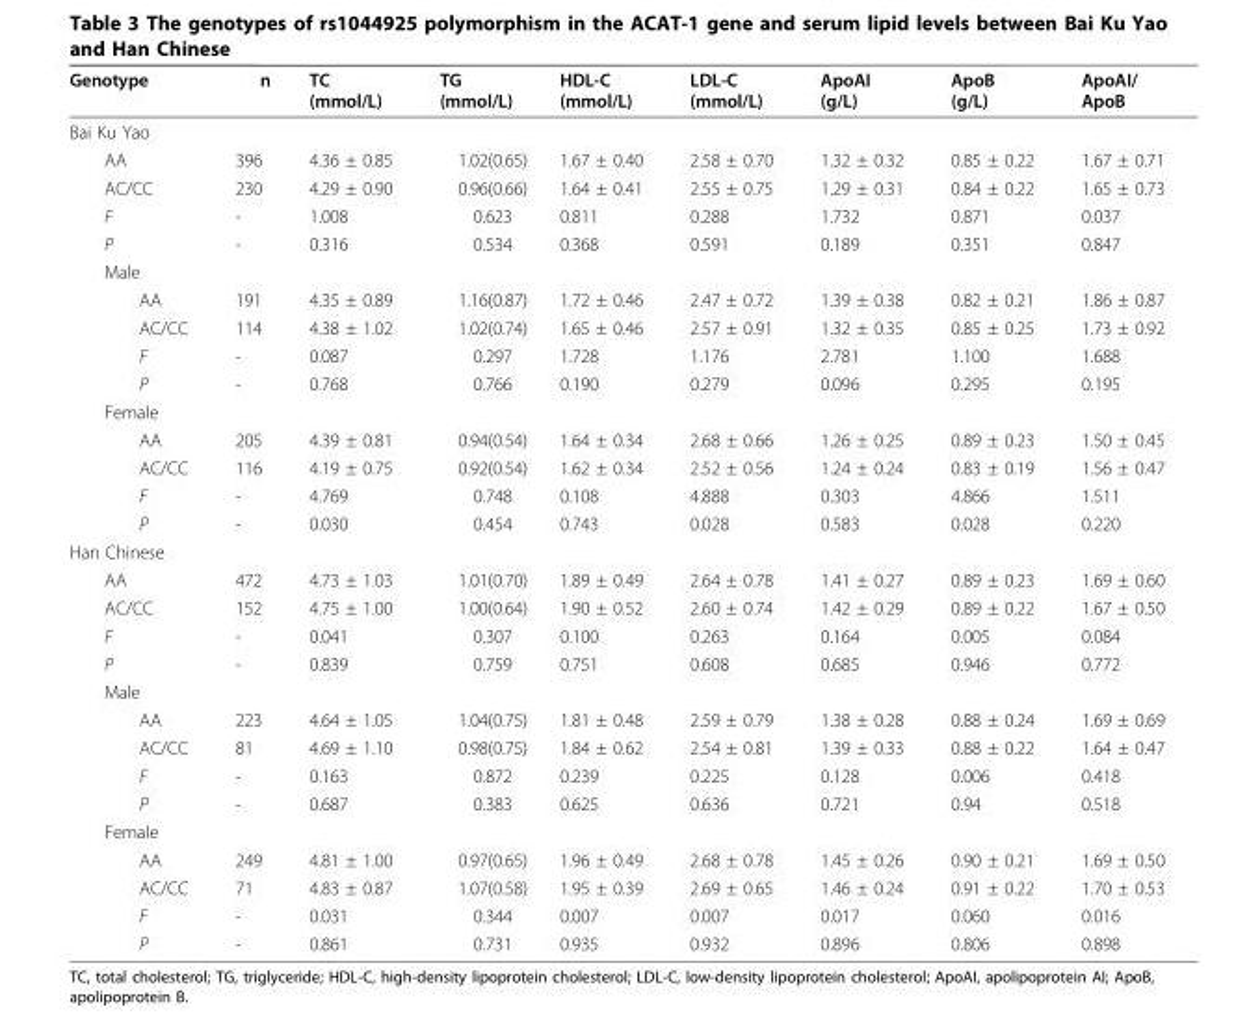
<table><thead><tr><td>Genotype</td><td>n</td><td>TC (mmol/L)</td><td>TG (mmol/L)</td><td>HDL-C (mmol/L)</td><td>LDL-C (mmol/L)</td><td>ApoAI (g/L)</td><td>ApoB (g/L)</td><td>ApoAI/ ApoB</td></tr></thead><tbody><tr><td colspan="9">Bai Ku Yao</td></tr><tr><td>AA</td><td>396</td><td>4.36 ± 0.85</td><td>1.02(0.65)</td><td>1.67 ± 0.40</td><td>2.58 ± 0.70</td><td>1.32 ± 0.32</td><td>0.85 ± 0.22</td><td>1.67 ± 0.71</td></tr><tr><td>AC/CC</td><td>230</td><td>4.29 ± 0.90</td><td>0.96(0.66)</td><td>1.64 ± 0.41</td><td>2.55 ± 0.75</td><td>1.29 ± 0.31</td><td>0.84 ± 0.22</td><td>1.65 ± 0.73</td></tr><tr><td>F</td><td>-</td><td>1.008</td><td>0.623</td><td>0.811</td><td>0.288</td><td>1.732</td><td>0.871</td><td>0.037</td></tr><tr><td>P</td><td>-</td><td>0.316</td><td>0.534</td><td>0.368</td><td>0.591</td><td>0.189</td><td>0.351</td><td>0.847</td></tr><tr><td colspan="9">Male</td></tr><tr><td>AA</td><td>191</td><td>4.35 ± 0.89</td><td>1.16(0.87)</td><td>1.72 ± 0.46</td><td>2.47 ± 0.72</td><td>1.39 ± 0.38</td><td>0.82 ± 0.21</td><td>1.86 ± 0.87</td></tr><tr><td>AC/CC</td><td>114</td><td>4.38 ± 1.02</td><td>1.02(0.74)</td><td>1.65 ± 0.46</td><td>2.57 ± 0.91</td><td>1.32 ± 0.35</td><td>0.85 ± 0.25</td><td>1.73 ± 0.92</td></tr><tr><td>F</td><td>-</td><td>0.087</td><td>0.297</td><td>1.728</td><td>1.176</td><td>2.781</td><td>1.100</td><td>1.688</td></tr><tr><td>P</td><td>-</td><td>0.768</td><td>0.766</td><td>0.190</td><td>0.279</td><td>0.096</td><td>0.295</td><td>0.195</td></tr><tr><td colspan="9">Female</td></tr><tr><td>AA</td><td>205</td><td>4.39 ± 0.81</td><td>0.94(0.54)</td><td>1.64 ± 0.34</td><td>2.68 ± 0.66</td><td>1.26 ± 0.25</td><td>0.89 ± 0.23</td><td>1.50 ± 0.45</td></tr><tr><td>AC/CC</td><td>116</td><td>4.19 ± 0.75</td><td>0.92(0.54)</td><td>1.62 ± 0.34</td><td>2.52 ± 0.56</td><td>1.24 ± 0.24</td><td>0.83 ± 0.19</td><td>1.56 ± 0.47</td></tr><tr><td>F</td><td>-</td><td>4.769</td><td>0.748</td><td>0.108</td><td>4.888</td><td>0.303</td><td>4.866</td><td>1.511</td></tr><tr><td>P</td><td>-</td><td>0.030</td><td>0.454</td><td>0.743</td><td>0.028</td><td>0.583</td><td>0.028</td><td>0.220</td></tr><tr><td colspan="9">Han Chinese</td></tr><tr><td>AA</td><td>472</td><td>4.73 ± 1.03</td><td>1.01(0.70)</td><td>1.89 ± 0.49</td><td>2.64 ± 0.78</td><td>1.41 ± 0.27</td><td>0.89 ± 0.23</td><td>1.69 ± 0.60</td></tr><tr><td>AC/CC</td><td>152</td><td>4.75 ± 1.00</td><td>1.00(0.64)</td><td>1.90 ± 0.52</td><td>2.60 ± 0.74</td><td>1.42 ± 0.29</td><td>0.89 ± 0.22</td><td>1.67 ± 0.50</td></tr><tr><td>F</td><td>-</td><td>0.041</td><td>0.307</td><td>0.100</td><td>0.263</td><td>0.164</td><td>0.005</td><td>0.084</td></tr><tr><td>P</td><td>-</td><td>0.839</td><td>0.759</td><td>0.751</td><td>0.608</td><td>0.685</td><td>0.946</td><td>0.772</td></tr><tr><td colspan="9">Male</td></tr><tr><td>AA</td><td>223</td><td>4.64 ± 1.05</td><td>1.04(0.75)</td><td>1.81 ± 0.48</td><td>2.59 ± 0.79</td><td>1.38 ± 0.28</td><td>0.88 ± 0.24</td><td>1.69 ± 0.69</td></tr><tr><td>AC/CC</td><td>81</td><td>4.69 ± 1.10</td><td>0.98(0.75)</td><td>1.84 ± 0.62</td><td>2.54 ± 0.81</td><td>1.39 ± 0.33</td><td>0.88 ± 0.22</td><td>1.64 ± 0.47</td></tr><tr><td>F</td><td>-</td><td>0.163</td><td>0.872</td><td>0.239</td><td>0.225</td><td>0.128</td><td>0.006</td><td>0.418</td></tr><tr><td>P</td><td>-</td><td>0.687</td><td>0.383</td><td>0.625</td><td>0.636</td><td>0.721</td><td>0.94</td><td>0.518</td></tr><tr><td colspan="9">Female</td></tr><tr><td>AA</td><td>249</td><td>4.81 ± 1.00</td><td>0.97(0.65)</td><td>1.96 ± 0.49</td><td>2.68 ± 0.78</td><td>1.45 ± 0.26</td><td>0.90 ± 0.21</td><td>1.69 ± 0.50</td></tr><tr><td>AC/CC</td><td>71</td><td>4.83 ± 0.87</td><td>1.07(0.58)</td><td>1.95 ± 0.39</td><td>2.69 ± 0.65</td><td>1.46 ± 0.24</td><td>0.91 ± 0.22</td><td>1.70 ± 0.53</td></tr><tr><td>F</td><td>-</td><td>0.031</td><td>0.344</td><td>0.007</td><td>0.007</td><td>0.017</td><td>0.060</td><td>0.016</td></tr><tr><td>P</td><td>-</td><td>0.861</td><td>0.731</td><td>0.935</td><td>0.932</td><td>0.896</td><td>0.806</td><td>0.898</td></tr></tbody></table>